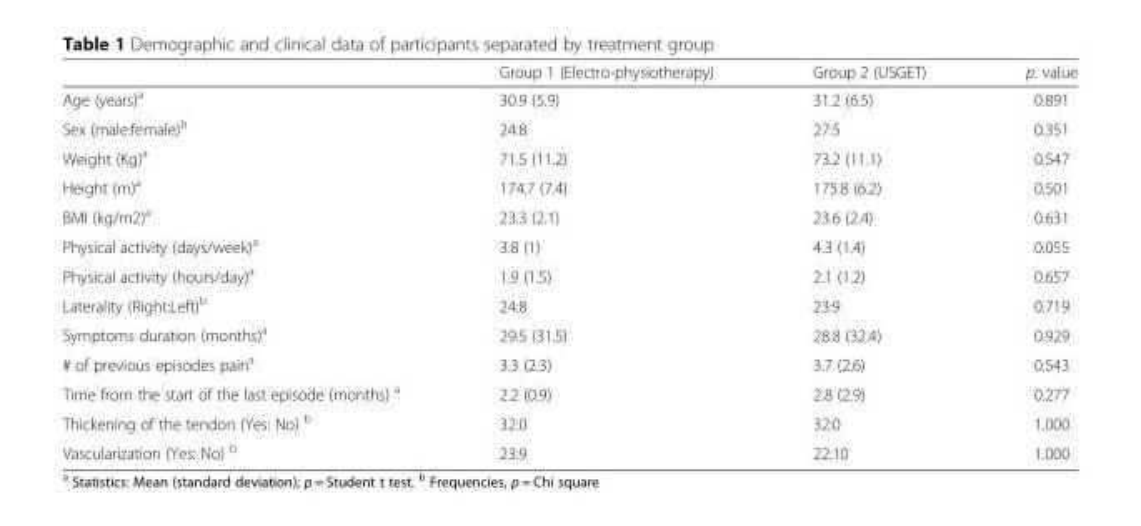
<table><thead><tr><td></td><td>Group 1 (Electro-physiotherapy)</td><td>Group 2 (USGET)</td><td>p. value</td></tr></thead><tbody><tr><td>Age (years)<sup>a</sup></td><td>30.9 (5.9)</td><td>31.2 (6.5)</td><td>0.891</td></tr><tr><td>Sex (male:female)<sup>b</sup></td><td>24:8</td><td>27:5</td><td>0.351</td></tr><tr><td>Weight (Kg)<sup>a</sup></td><td>71.5 (11.2)</td><td>73.2 (11.1)</td><td>0.547</td></tr><tr><td>Height (m)<sup>a</sup></td><td>174.7 (7.4)</td><td>175.8 (6.2)</td><td>0.501</td></tr><tr><td>BMI (kg/m2)<sup>a</sup></td><td>23.3 (2.1)</td><td>23.6 (2.4)</td><td>0.631</td></tr><tr><td>Physical activity (days/week)<sup>a</sup></td><td>3.8 (1)</td><td>4.3 (1.4)</td><td>0.055</td></tr><tr><td>Physical activity (hours/day)<sup>a</sup></td><td>1.9 (1.5)</td><td>2.1 (1.2)</td><td>0.657</td></tr><tr><td>Laterality (Right:Left)<sup>b</sup></td><td>24:8</td><td>23:9</td><td>0.719</td></tr><tr><td>Symptoms duration (months)<sup>a</sup></td><td>29.5 (31.5)</td><td>28.8 (32.4)</td><td>0.929</td></tr><tr><td># of previous episodes pain<sup>a</sup></td><td>3.3 (2.3)</td><td>3.7 (2.6)</td><td>0.543</td></tr><tr><td>Time from the start of the last episode (months) <sup>a</sup></td><td>2.2 (0.9)</td><td>2.8 (2.9)</td><td>0.277</td></tr><tr><td>Thickening of the tendon (Yes: No) <sup>b</sup></td><td>32:0</td><td>32:0</td><td>1.000</td></tr><tr><td>Vascularization (Yes: No) <sup>b</sup></td><td>23:9</td><td>22:10</td><td>1.000</td></tr></tbody></table>